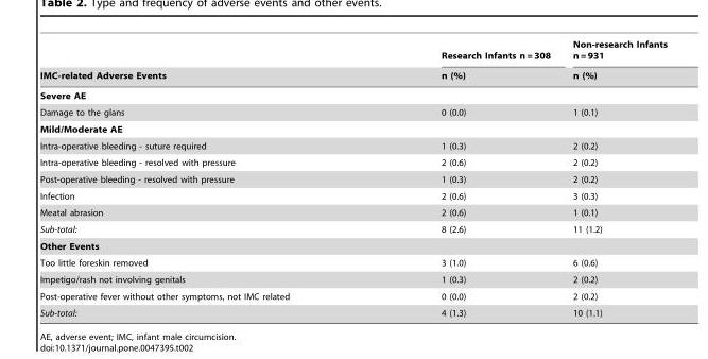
<table><thead><tr><td rowspan="2">IMC-related Adverse Events</td><td rowspan="2">Research Infants n = 308 n (%)</td><td rowspan="2">Non-research Infants n = 931 n (%)</td></tr><tr></tr></thead><tbody><tr><td colspan="3">Severe AE</td></tr><tr><td>Damage to the glans</td><td>0 (0.0)</td><td>1 (0.1)</td></tr><tr><td colspan="3">Mild/Moderate AE</td></tr><tr><td>Intra-operative bleeding - suture required</td><td>1 (0.3)</td><td>2 (0.2)</td></tr><tr><td>Intra-operative bleeding - resolved with pressure</td><td>2 (0.6)</td><td>2 (0.2)</td></tr><tr><td>Post-operative bleeding - resolved with pressure</td><td>1 (0.3)</td><td>2 (0.2)</td></tr><tr><td>Infection</td><td>2 (0.6)</td><td>3 (0.3)</td></tr><tr><td>Meatal abrasion</td><td>2 (0.6)</td><td>1 (0.1)</td></tr><tr><td>Sub-total:</td><td>8 (2.6)</td><td>11 (1.2)</td></tr><tr><td colspan="3">Other Events</td></tr><tr><td>Too little foreskin removed</td><td>3 (1.0)</td><td>6 (0.6)</td></tr><tr><td>Impetigo/rash not involving genitals</td><td>1 (0.3)</td><td>2 (0.2)</td></tr><tr><td>Post-operative fever without other symptoms, not IMC related</td><td>0 (0.0)</td><td>2 (0.2)</td></tr><tr><td>Sub-total:</td><td>4 (1.3)</td><td>10 (1.1)</td></tr></tbody></table>